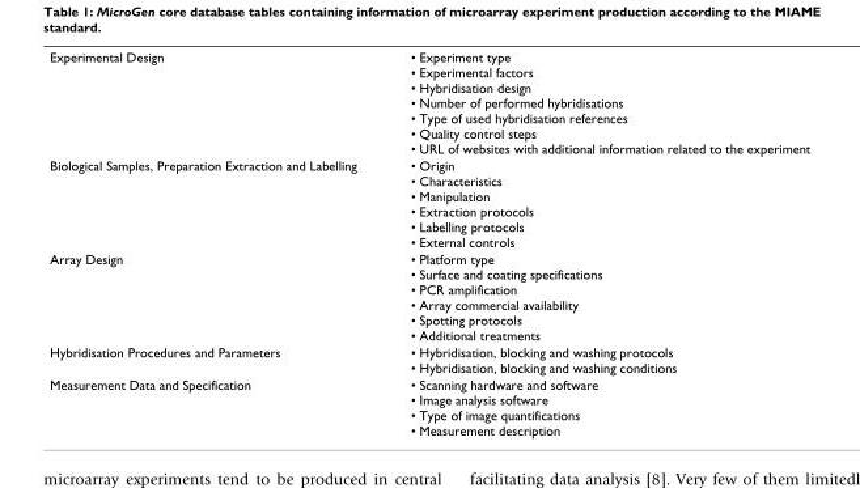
<table><tbody><tr><td>Experimental Design</td><td>• Experiment type • Experimental factors • Hybridisation design • Number of performed hybridisations • Type of used hybridisation references • Quality control steps • URL of websites with additional information related to the experiment</td></tr><tr><td>Biological Samples, Preparation Extraction and Labelling</td><td>• Origin • Characteristics • Manipulation • Extraction protocols • Labelling protocols • External controls</td></tr><tr><td>Array Design</td><td>• Platform type • Surface and coating specifications • PCR amplification • Array commercial availability • Spotting protocols • Additional treatments</td></tr><tr><td>Hybridisation Procedures and Parameters</td><td>• Hybridisation, blocking and washing protocols • Hybridisation, blocking and washing conditions</td></tr><tr><td>Measurement Data and Specification</td><td>• Scanning hardware and software • Image analysis software • Type of image quantifications • Measurement description</td></tr></tbody></table>